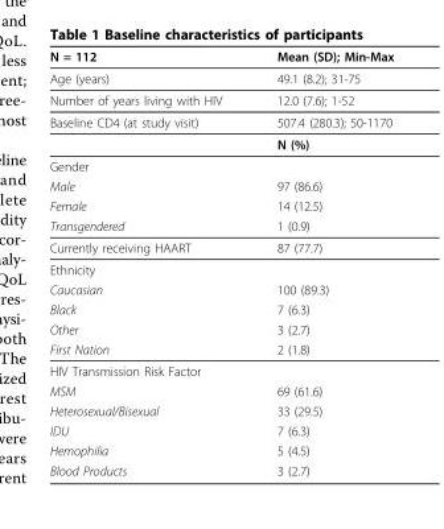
<table><thead><tr><td>N = 112</td><td>Mean (SD); Min-Max</td></tr></thead><tbody><tr><td>Age (years)</td><td>49.1 (8.2); 31-75</td></tr><tr><td>Number of years living with HIV</td><td>12.0 (7.6); 1-52</td></tr><tr><td rowspan="2">Baseline CD4 (at study visit)</td><td>507.4 (280.3); 50-1170</td></tr><tr><td>N (%)</td></tr><tr><td colspan="2">Gender</td></tr><tr><td>Male</td><td>97 (86.6)</td></tr><tr><td>Female</td><td>14 (12.5)</td></tr><tr><td>Transgendered</td><td>1 (0.9)</td></tr><tr><td>Currently receiving HAART</td><td>87 (77.7)</td></tr><tr><td colspan="2">Ethnicity</td></tr><tr><td>Caucasian</td><td>100 (89.3)</td></tr><tr><td>Black</td><td>7 (6.3)</td></tr><tr><td>Other</td><td>3 (2.7)</td></tr><tr><td>First Nation</td><td>2 (1.8)</td></tr><tr><td colspan="2">HIV Transmission Risk Factor</td></tr><tr><td>MSM</td><td>69 (61.6)</td></tr><tr><td>Heterosexual/Bisexual</td><td>33 (29.5)</td></tr><tr><td>IDU</td><td>7 (6.3)</td></tr><tr><td>Hemophilia</td><td>5 (4.5)</td></tr><tr><td>Blood Products</td><td>3 (2.7)</td></tr></tbody></table>